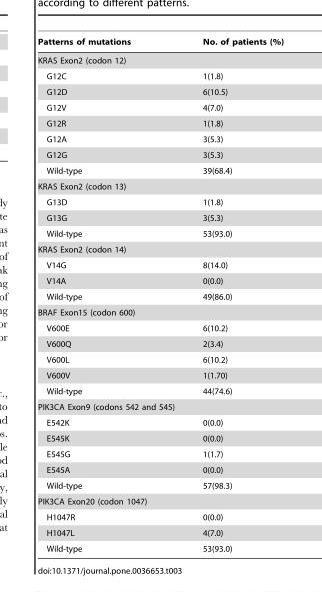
<table><thead><tr><td>Patterns of mutations</td><td>No. of patients (%)</td></tr></thead><tbody><tr><td colspan="2">KRAS Exon2 (codon 12)</td></tr><tr><td>G12C</td><td>1(1.8)</td></tr><tr><td>G12D</td><td>6(10.5)</td></tr><tr><td>G12V</td><td>4(7.0)</td></tr><tr><td>G12R</td><td>1(1.8)</td></tr><tr><td>G12A</td><td>3(5.3)</td></tr><tr><td>G12G</td><td>3(5.3)</td></tr><tr><td>Wild-type</td><td>39(68.4)</td></tr><tr><td colspan="2">KRAS Exon2 (codon 13)</td></tr><tr><td>G13D</td><td>1(1.8)</td></tr><tr><td>G13G</td><td>3(5.3)</td></tr><tr><td>Wild-type</td><td>53(93.0)</td></tr><tr><td colspan="2">KRAS Exon2 (codon 14)</td></tr><tr><td>V14G</td><td>8(14.0)</td></tr><tr><td>V14A</td><td>0(0.0)</td></tr><tr><td>Wild-type</td><td>49(86.0)</td></tr><tr><td colspan="2">BRAF Exon15 (codon 600)</td></tr><tr><td>V600E</td><td>6(10.2)</td></tr><tr><td>V600Q</td><td>2(3.4)</td></tr><tr><td>V600L</td><td>6(10.2)</td></tr><tr><td>V600V</td><td>1(1.70)</td></tr><tr><td>Wild-type</td><td>44(74.6)</td></tr><tr><td colspan="2">PIK3CA Exon9 (codons 542 and 545)</td></tr><tr><td>E542K</td><td>0(0.0)</td></tr><tr><td>E545K</td><td>0(0.0)</td></tr><tr><td>E545G</td><td>1(1.7)</td></tr><tr><td>E545A</td><td>0(0.0)</td></tr><tr><td>Wild-type</td><td>57(98.3)</td></tr><tr><td colspan="2">PIK3CA Exon20 (codon 1047)</td></tr><tr><td>H1047R</td><td>0(0.0)</td></tr><tr><td>H1047L</td><td>4(7.0)</td></tr><tr><td>Wild-type</td><td>53(93.0)</td></tr></tbody></table>